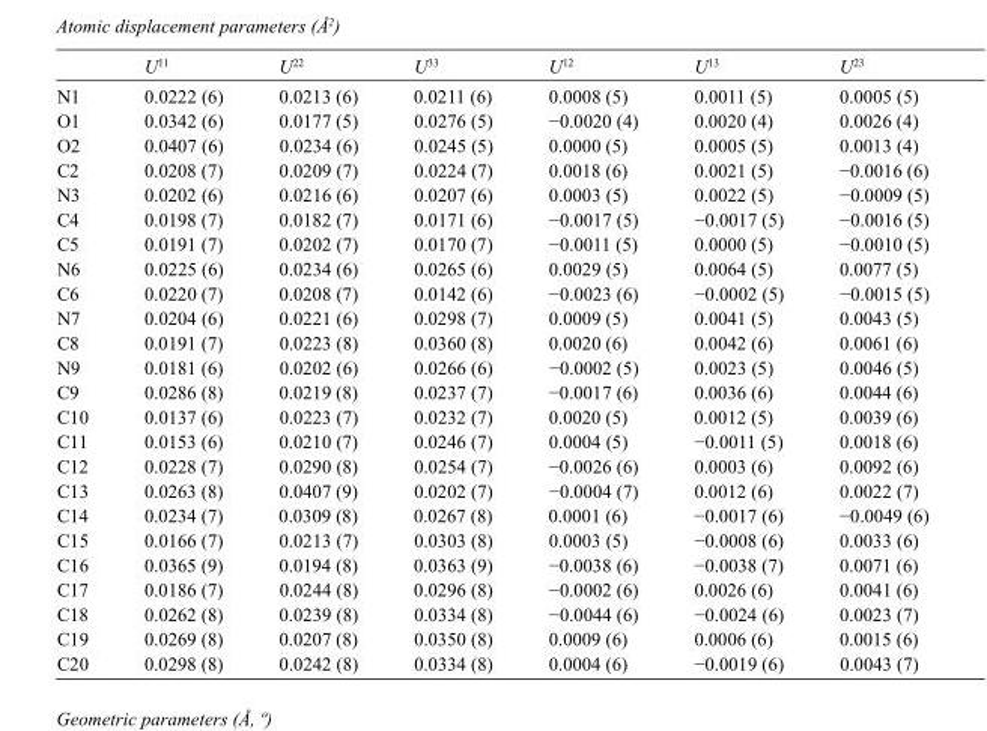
<table><thead><tr><td></td><td>U<sup>11</sup></td><td>U<sup>22</sup></td><td>U<sup>33</sup></td><td>U<sup>12</sup></td><td>U<sup>13</sup></td><td>U<sup>23</sup></td></tr></thead><tbody><tr><td>N1</td><td>0.0222 (6)</td><td>0.0213 (6)</td><td>0.0211 (6)</td><td>0.0008 (5)</td><td>0.0011 (5)</td><td>0.0005 (5)</td></tr><tr><td>O1</td><td>0.0342 (6)</td><td>0.0177 (5)</td><td>0.0276 (5)</td><td>−0.0020 (4)</td><td>0.0020 (4)</td><td>0.0026 (4)</td></tr><tr><td>O2</td><td>0.0407 (6)</td><td>0.0234 (6)</td><td>0.0245 (5)</td><td>0.0000 (5)</td><td>0.0005 (5)</td><td>0.0013 (4)</td></tr><tr><td>C2</td><td>0.0208 (7)</td><td>0.0209 (7)</td><td>0.0224 (7)</td><td>0.0018 (6)</td><td>0.0021 (5)</td><td>−0.0016 (6)</td></tr><tr><td>N3</td><td>0.0202 (6)</td><td>0.0216 (6)</td><td>0.0207 (6)</td><td>0.0003 (5)</td><td>0.0022 (5)</td><td>−0.0009 (5)</td></tr><tr><td>C4</td><td>0.0198 (7)</td><td>0.0182 (7)</td><td>0.0171 (6)</td><td>−0.0017 (5)</td><td>−0.0017 (5)</td><td>−0.0016 (5)</td></tr><tr><td>C5</td><td>0.0191 (7)</td><td>0.0202 (7)</td><td>0.0170 (7)</td><td>−0.0011 (5)</td><td>0.0000 (5)</td><td>−0.0010 (5)</td></tr><tr><td>N6</td><td>0.0225 (6)</td><td>0.0234 (6)</td><td>0.0265 (6)</td><td>0.0029 (5)</td><td>0.0064 (5)</td><td>0.0077 (5)</td></tr><tr><td>C6</td><td>0.0220 (7)</td><td>0.0208 (7)</td><td>0.0142 (6)</td><td>−0.0023 (6)</td><td>−0.0002 (5)</td><td>−0.0015 (5)</td></tr><tr><td>N7</td><td>0.0204 (6)</td><td>0.0221 (6)</td><td>0.0298 (7)</td><td>0.0009 (5)</td><td>0.0041 (5)</td><td>0.0043 (5)</td></tr><tr><td>C8</td><td>0.0191 (7)</td><td>0.0223 (8)</td><td>0.0360 (8)</td><td>0.0020 (6)</td><td>0.0042 (6)</td><td>0.0061 (6)</td></tr><tr><td>N9</td><td>0.0181 (6)</td><td>0.0202 (6)</td><td>0.0266 (6)</td><td>−0.0002 (5)</td><td>0.0023 (5)</td><td>0.0046 (5)</td></tr><tr><td>C9</td><td>0.0286 (8)</td><td>0.0219 (8)</td><td>0.0237 (7)</td><td>−0.0017 (6)</td><td>0.0036 (6)</td><td>0.0044 (6)</td></tr><tr><td>C10</td><td>0.0137 (6)</td><td>0.0223 (7)</td><td>0.0232 (7)</td><td>0.0020 (5)</td><td>0.0012 (5)</td><td>0.0039 (6)</td></tr><tr><td>C11</td><td>0.0153 (6)</td><td>0.0210 (7)</td><td>0.0246 (7)</td><td>0.0004 (5)</td><td>−0.0011 (5)</td><td>0.0018 (6)</td></tr><tr><td>C12</td><td>0.0228 (7)</td><td>0.0290 (8)</td><td>0.0254 (7)</td><td>−0.0026 (6)</td><td>0.0003 (6)</td><td>0.0092 (6)</td></tr><tr><td>C13</td><td>0.0263 (8)</td><td>0.0407 (9)</td><td>0.0202 (7)</td><td>−0.0004 (7)</td><td>0.0012 (6)</td><td>0.0022 (7)</td></tr><tr><td>C14</td><td>0.0234 (7)</td><td>0.0309 (8)</td><td>0.0267 (8)</td><td>0.0001 (6)</td><td>−0.0017 (6)</td><td>−0.0049 (6)</td></tr><tr><td>C15</td><td>0.0166 (7)</td><td>0.0213 (7)</td><td>0.0303 (8)</td><td>0.0003 (5)</td><td>−0.0008 (6)</td><td>0.0033 (6)</td></tr><tr><td>C16</td><td>0.0365 (9)</td><td>0.0194 (8)</td><td>0.0363 (9)</td><td>−0.0038 (6)</td><td>−0.0038 (7)</td><td>0.0071 (6)</td></tr><tr><td>C17</td><td>0.0186 (7)</td><td>0.0244 (8)</td><td>0.0296 (8)</td><td>−0.0002 (6)</td><td>0.0026 (6)</td><td>0.0041 (6)</td></tr><tr><td>C18</td><td>0.0262 (8)</td><td>0.0239 (8)</td><td>0.0334 (8)</td><td>−0.0044 (6)</td><td>−0.0024 (6)</td><td>0.0023 (7)</td></tr><tr><td>C19</td><td>0.0269 (8)</td><td>0.0207 (8)</td><td>0.0350 (8)</td><td>0.0009 (6)</td><td>0.0006 (6)</td><td>0.0015 (6)</td></tr><tr><td>C20</td><td>0.0298 (8)</td><td>0.0242 (8)</td><td>0.0334 (8)</td><td>0.0004 (6)</td><td>−0.0019 (6)</td><td>0.0043 (7)</td></tr></tbody></table>